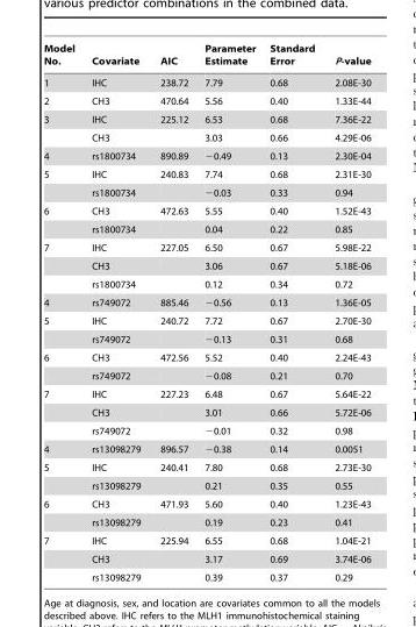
<table><thead><tr><td>Model No.</td><td>Covariate</td><td>AIC</td><td>Parameter Estimate</td><td>Standard Error</td><td>P-value</td></tr></thead><tbody><tr><td>1</td><td>IHC</td><td>238.72</td><td>7.79</td><td>0.68</td><td>2.08E-30</td></tr><tr><td>2</td><td>CH3</td><td>470.64</td><td>5.56</td><td>0.40</td><td>1.33E-44</td></tr><tr><td rowspan="2">3</td><td>IHC</td><td>225.12</td><td>6.53</td><td>0.68</td><td>7.36E-22</td></tr><tr><td>CH3</td><td></td><td>3.03</td><td>0.66</td><td>4.29E-06</td></tr><tr><td>4</td><td>rs1800734</td><td>890.89</td><td>−0.49</td><td>0.13</td><td>2.30E-04</td></tr><tr><td rowspan="2">5</td><td>IHC</td><td>240.83</td><td>7.74</td><td>0.68</td><td>2.31E-30</td></tr><tr><td>rs1800734</td><td></td><td>−0.03</td><td>0.33</td><td>0.94</td></tr><tr><td rowspan="2">6</td><td>CH3</td><td>472.63</td><td>5.55</td><td>0.40</td><td>1.52E-43</td></tr><tr><td>rs1800734</td><td></td><td>0.04</td><td>0.22</td><td>0.85</td></tr><tr><td rowspan="3">7</td><td>IHC</td><td>227.05</td><td>6.50</td><td>0.67</td><td>5.98E-22</td></tr><tr><td>CH3</td><td></td><td>3.06</td><td>0.67</td><td>5.18E-06</td></tr><tr><td>rs1800734</td><td></td><td>0.12</td><td>0.34</td><td>0.72</td></tr><tr><td>4</td><td>rs749072</td><td>885.46</td><td>−0.56</td><td>0.13</td><td>1.36E-05</td></tr><tr><td rowspan="2">5</td><td>IHC</td><td>240.72</td><td>7.72</td><td>0.67</td><td>2.70E-30</td></tr><tr><td>rs749072</td><td></td><td>−0.13</td><td>0.31</td><td>0.68</td></tr><tr><td rowspan="2">6</td><td>CH3</td><td>472.56</td><td>5.52</td><td>0.40</td><td>2.24E-43</td></tr><tr><td>rs749072</td><td></td><td>−0.08</td><td>0.21</td><td>0.70</td></tr><tr><td rowspan="3">7</td><td>IHC</td><td>227.23</td><td>6.48</td><td>0.67</td><td>5.64E-22</td></tr><tr><td>CH3</td><td></td><td>3.01</td><td>0.66</td><td>5.72E-06</td></tr><tr><td>rs749072</td><td></td><td>−0.01</td><td>0.32</td><td>0.98</td></tr><tr><td>4</td><td>rs13098279</td><td>896.57</td><td>−0.38</td><td>0.14</td><td>0.0051</td></tr><tr><td rowspan="2">5</td><td>IHC</td><td>240.41</td><td>7.80</td><td>0.68</td><td>2.73E-30</td></tr><tr><td>rs13098279</td><td></td><td>0.21</td><td>0.35</td><td>0.55</td></tr><tr><td rowspan="2">6</td><td>CH3</td><td>471.93</td><td>5.60</td><td>0.40</td><td>1.23E-43</td></tr><tr><td>rs13098279</td><td></td><td>0.19</td><td>0.23</td><td>0.41</td></tr><tr><td rowspan="3">7</td><td>IHC</td><td>225.94</td><td>6.55</td><td>0.68</td><td>1.04E-21</td></tr><tr><td>CH3</td><td></td><td>3.17</td><td>0.69</td><td>3.74E-06</td></tr><tr><td>rs13098279</td><td></td><td>0.39</td><td>0.37</td><td>0.29</td></tr></tbody></table>